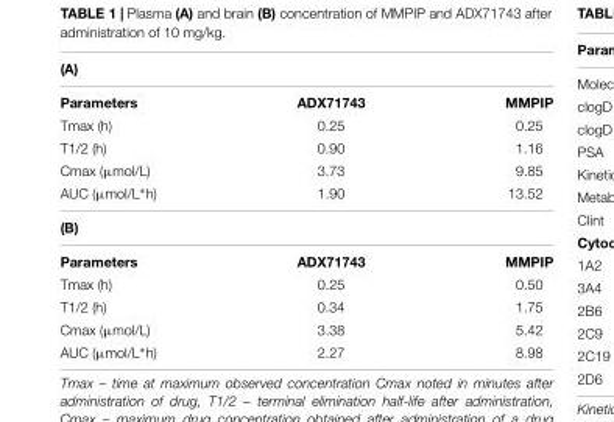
<table><thead><tr><td>(A)</td><td></td><td></td></tr></thead><tbody><tr><td>Parameters</td><td>ADX71743</td><td>MMPIP</td></tr><tr><td>Tmax (h)</td><td>0.25</td><td>0.25</td></tr><tr><td>T1/2 (h)</td><td>0.90</td><td>1.16</td></tr><tr><td>Cmax (µmol/L)</td><td>3.73</td><td>9.85</td></tr><tr><td>AUC (µmol/L∗h)</td><td>1.90</td><td>13.52</td></tr><tr><td colspan="3">(B)</td></tr><tr><td>Parameters</td><td>ADX71743</td><td>MMPIP</td></tr><tr><td>Tmax (h)</td><td>0.25</td><td>0.50</td></tr><tr><td>T1/2 (h)</td><td>0.34</td><td>1.75</td></tr><tr><td>Cmax (µmol/L)</td><td>3.38</td><td>5.42</td></tr><tr><td>AUC (µmol/L∗h)</td><td>2.27</td><td>8.98</td></tr></tbody></table>